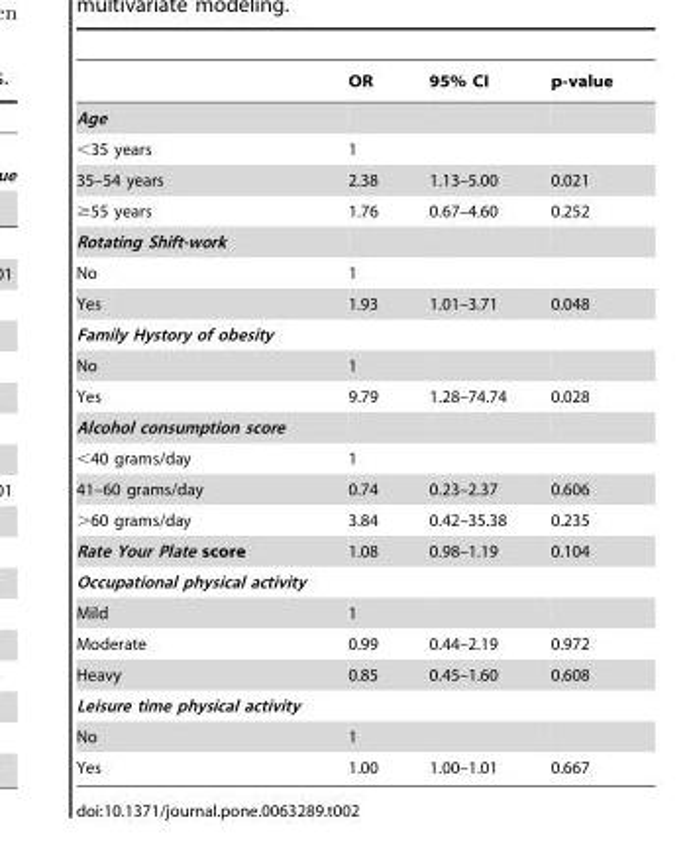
<table><thead><tr><td></td><td>OR</td><td>95% CI</td><td>p-value</td></tr></thead><tbody><tr><td colspan="4">Age</td></tr><tr><td>&lt;35 years</td><td>1</td><td></td><td></td></tr><tr><td>35–54 years</td><td>2.38</td><td>1.13–5.00</td><td>0.021</td></tr><tr><td>≥55 years</td><td>1.76</td><td>0.67–4.60</td><td>0.252</td></tr><tr><td colspan="4">Rotating Shift-work</td></tr><tr><td>No</td><td>1</td><td></td><td></td></tr><tr><td>Yes</td><td>1.93</td><td>1.01–3.71</td><td>0.048</td></tr><tr><td colspan="4">Family Hystory of obesity</td></tr><tr><td>No</td><td>1</td><td></td><td></td></tr><tr><td>Yes</td><td>9.79</td><td>1.28–74.74</td><td>0.028</td></tr><tr><td colspan="4">Alcohol consumption score</td></tr><tr><td>&lt;40 grams/day</td><td>1</td><td></td><td></td></tr><tr><td>41–60 grams/day</td><td>0.74</td><td>0.23–2.37</td><td>0.606</td></tr><tr><td>&gt;60 grams/day</td><td>3.84</td><td>0.42–35.38</td><td>0.235</td></tr><tr><td>Rate Your Plate score</td><td>1.08</td><td>0.98–1.19</td><td>0.104</td></tr><tr><td colspan="4">Occupational physical activity</td></tr><tr><td>Mild</td><td>1</td><td></td><td></td></tr><tr><td>Moderate</td><td>0.99</td><td>0.44–2.19</td><td>0.972</td></tr><tr><td>Heavy</td><td>0.85</td><td>0.45–1.60</td><td>0.608</td></tr><tr><td colspan="4">Leisure time physical activity</td></tr><tr><td>No</td><td>1</td><td></td><td></td></tr><tr><td>Yes</td><td>1.00</td><td>1.00–1.01</td><td>0.667</td></tr></tbody></table>